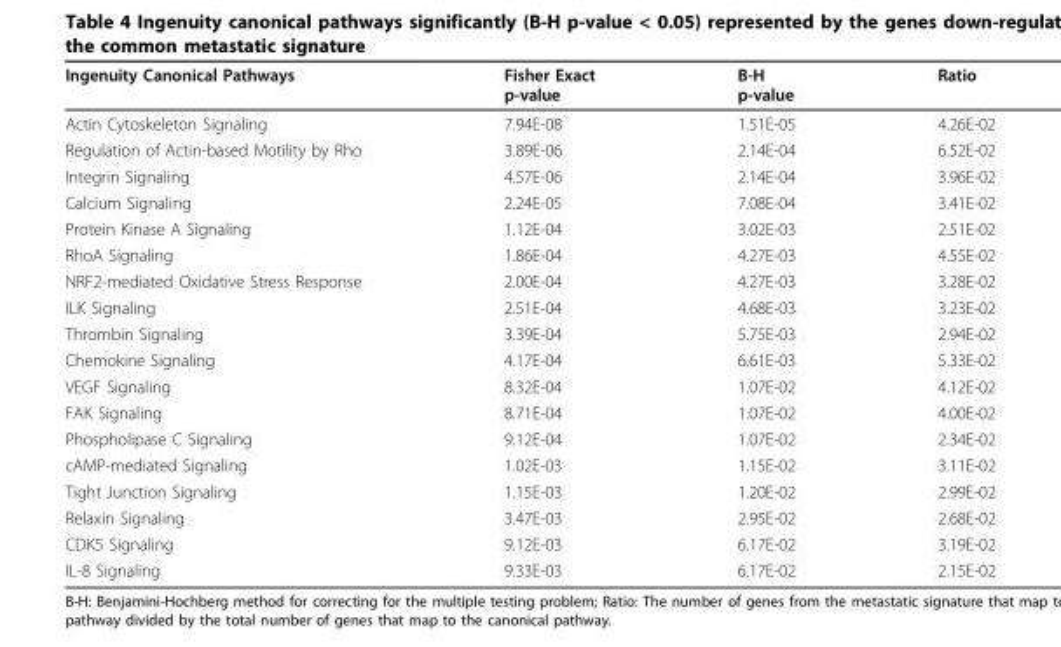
<table><thead><tr><td>Ingenuity Canonical Pathways</td><td>Fisher Exact p-value</td><td>B-H p-value</td><td>Ratio</td></tr></thead><tbody><tr><td>Actin Cytoskeleton Signaling</td><td>7.94E-08</td><td>1.51E-05</td><td>4.26E-02</td></tr><tr><td>Regulation of Actin-based Motility by Rho</td><td>3.89E-06</td><td>2.14E-04</td><td>6.52E-02</td></tr><tr><td>Integrin Signaling</td><td>4.57E-06</td><td>2.14E-04</td><td>3.96E-02</td></tr><tr><td>Calcium Signaling</td><td>2.24E-05</td><td>7.08E-04</td><td>3.41E-02</td></tr><tr><td>Protein Kinase A Signaling</td><td>1.12E-04</td><td>3.02E-03</td><td>2.51E-02</td></tr><tr><td>RhoA Signaling</td><td>1.86E-04</td><td>4.27E-03</td><td>4.55E-02</td></tr><tr><td>NRF2-mediated Oxidative Stress Response</td><td>2.00E-04</td><td>4.27E-03</td><td>3.28E-02</td></tr><tr><td>ILK Signaling</td><td>2.51E-04</td><td>4.68E-03</td><td>3.23E-02</td></tr><tr><td>Thrombin Signaling</td><td>3.39E-04</td><td>5.75E-03</td><td>2.94E-02</td></tr><tr><td>Chemokine Signaling</td><td>4.17E-04</td><td>6.61E-03</td><td>5.33E-02</td></tr><tr><td>VEGF Signaling</td><td>8.32E-04</td><td>1.07E-02</td><td>4.12E-02</td></tr><tr><td>FAK Signaling</td><td>8.71E-04</td><td>1.07E-02</td><td>4.00E-02</td></tr><tr><td>Phospholipase C Signaling</td><td>9.12E-04</td><td>1.07E-02</td><td>2.34E-02</td></tr><tr><td>cAMP-mediated Signaling</td><td>1.02E-03</td><td>1.15E-02</td><td>3.11E-02</td></tr><tr><td>Tight Junction Signaling</td><td>1.15E-03</td><td>1.20E-02</td><td>2.99E-02</td></tr><tr><td>Relaxin Signaling</td><td>3.47E-03</td><td>2.95E-02</td><td>2.68E-02</td></tr><tr><td>CDK5 Signaling</td><td>9.12E-03</td><td>6.17E-02</td><td>3.19E-02</td></tr><tr><td>IL-8 Signaling</td><td>9.33E-03</td><td>6.17E-02</td><td>2.15E-02</td></tr></tbody></table>